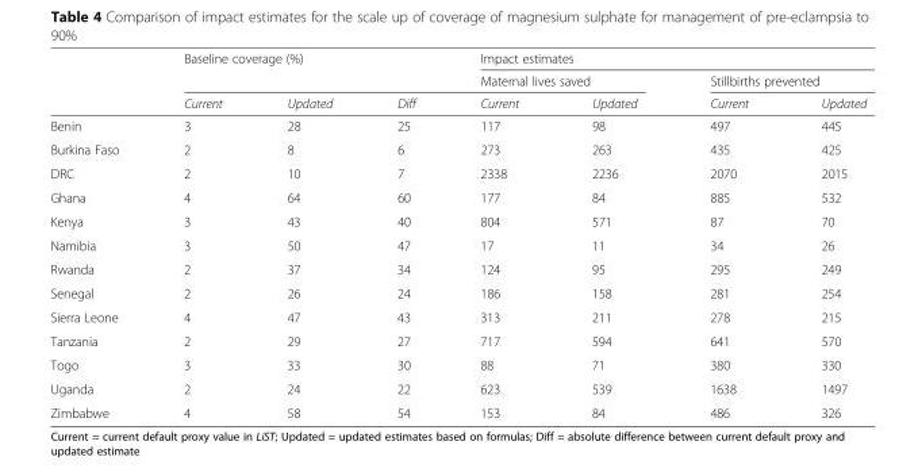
<table><thead><tr><td rowspan="3"></td><td rowspan="2" colspan="3">Baseline coverage (%)</td><td colspan="4">Impact estimates</td></tr><tr><td colspan="2">Maternal lives saved</td><td colspan="2">Stillbirths prevented</td></tr><tr><td>Current</td><td>Updated</td><td>Diff</td><td>Current</td><td>Updated</td><td>Current</td><td>Updated</td></tr></thead><tbody><tr><td>Benin</td><td>3</td><td>28</td><td>25</td><td>117</td><td>98</td><td>497</td><td>445</td></tr><tr><td>Burkina Faso</td><td>2</td><td>8</td><td>6</td><td>273</td><td>263</td><td>435</td><td>425</td></tr><tr><td>DRC</td><td>2</td><td>10</td><td>7</td><td>2338</td><td>2236</td><td>2070</td><td>2015</td></tr><tr><td>Ghana</td><td>4</td><td>64</td><td>60</td><td>177</td><td>84</td><td>885</td><td>532</td></tr><tr><td>Kenya</td><td>3</td><td>43</td><td>40</td><td>804</td><td>571</td><td>87</td><td>70</td></tr><tr><td>Namibia</td><td>3</td><td>50</td><td>47</td><td>17</td><td>11</td><td>34</td><td>26</td></tr><tr><td>Rwanda</td><td>2</td><td>37</td><td>34</td><td>124</td><td>95</td><td>295</td><td>249</td></tr><tr><td>Senegal</td><td>2</td><td>26</td><td>24</td><td>186</td><td>158</td><td>281</td><td>254</td></tr><tr><td>Sierra Leone</td><td>4</td><td>47</td><td>43</td><td>313</td><td>211</td><td>278</td><td>215</td></tr><tr><td>Tanzania</td><td>2</td><td>29</td><td>27</td><td>717</td><td>594</td><td>641</td><td>570</td></tr><tr><td>Togo</td><td>3</td><td>33</td><td>30</td><td>88</td><td>71</td><td>380</td><td>330</td></tr><tr><td>Uganda</td><td>2</td><td>24</td><td>22</td><td>623</td><td>539</td><td>1638</td><td>1497</td></tr><tr><td>Zimbabwe</td><td>4</td><td>58</td><td>54</td><td>153</td><td>84</td><td>486</td><td>326</td></tr></tbody></table>